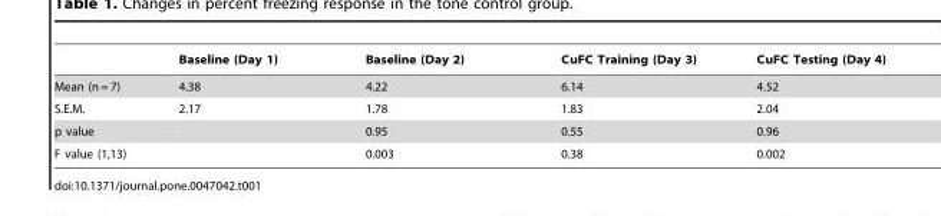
<table><thead><tr><td></td><td>Baseline (Day 1)</td><td>Baseline (Day 2)</td><td>CuFC Training (Day 3)</td><td>CuFC Testing (Day 4)</td></tr></thead><tbody><tr><td>Mean (n = 7)</td><td>4.38</td><td>4.22</td><td>6.14</td><td>4.52</td></tr><tr><td>S.E.M.</td><td>2.17</td><td>1.78</td><td>1.83</td><td>2.04</td></tr><tr><td>p value</td><td></td><td>0.95</td><td>0.55</td><td>0.96</td></tr><tr><td>F value (1,13)</td><td></td><td>0.003</td><td>0.38</td><td>0.002</td></tr></tbody></table>